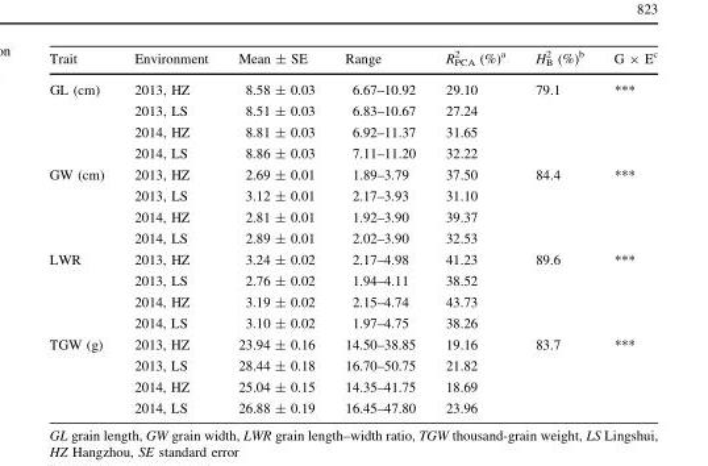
<table><thead><tr><td>Trait</td><td>Environment</td><td>Mean ± SE</td><td>Range</td><td>R<sub>PCA</sub> <sup>2</sup> (%)<sup>a</sup></td><td>H<sub>B</sub> <sup>2</sup> (%)<sup>b</sup></td><td>G × E<sup>c</sup></td></tr></thead><tbody><tr><td rowspan="4">GL (cm)</td><td>2013, HZ</td><td>8.58 ± 0.03</td><td>6.67–10.92</td><td>29.10</td><td>79.1</td><td>***</td></tr><tr><td>2013, LS</td><td>8.51 ± 0.03</td><td>6.83–10.67</td><td>27.24</td><td></td><td></td></tr><tr><td>2014, HZ</td><td>8.81 ± 0.03</td><td>6.92–11.37</td><td>31.65</td><td></td><td></td></tr><tr><td>2014, LS</td><td>8.86 ± 0.03</td><td>7.11–11.20</td><td>32.22</td><td></td><td></td></tr><tr><td rowspan="4">GW (cm)</td><td>2013, HZ</td><td>2.69 ± 0.01</td><td>1.89–3.79</td><td>37.50</td><td>84.4</td><td>***</td></tr><tr><td>2013, LS</td><td>3.12 ± 0.01</td><td>2.17–3.93</td><td>31.10</td><td></td><td></td></tr><tr><td>2014, HZ</td><td>2.81 ± 0.01</td><td>1.92–3.90</td><td>39.37</td><td></td><td></td></tr><tr><td>2014, LS</td><td>2.89 ± 0.01</td><td>2.02–3.90</td><td>32.53</td><td></td><td></td></tr><tr><td rowspan="4">LWR</td><td>2013, HZ</td><td>3.24 ± 0.02</td><td>2.17–4.98</td><td>41.23</td><td>89.6</td><td>***</td></tr><tr><td>2013, LS</td><td>2.76 ± 0.02</td><td>1.94–4.11</td><td>38.52</td><td></td><td></td></tr><tr><td>2014, HZ</td><td>3.19 ± 0.02</td><td>2.15–4.74</td><td>43.73</td><td></td><td></td></tr><tr><td>2014, LS</td><td>3.10 ± 0.02</td><td>1.97–4.75</td><td>38.26</td><td></td><td></td></tr><tr><td rowspan="4">TGW (g)</td><td>2013, HZ</td><td>23.94 ± 0.16</td><td>14.50–38.85</td><td>19.16</td><td>83.7</td><td>***</td></tr><tr><td>2013, LS</td><td>28.44 ± 0.18</td><td>16.70–50.75</td><td>21.82</td><td></td><td></td></tr><tr><td>2014, HZ</td><td>25.04 ± 0.15</td><td>14.35–41.75</td><td>18.69</td><td></td><td></td></tr><tr><td>2014, LS</td><td>26.88 ± 0.19</td><td>16.45–47.80</td><td>23.96</td><td></td><td></td></tr></tbody></table>